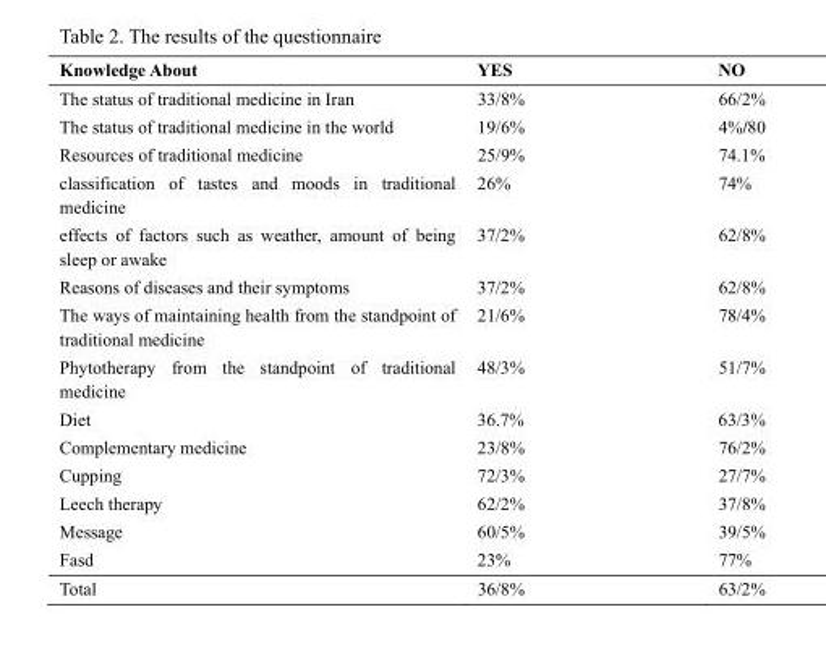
<table><thead><tr><td>Knowledge About</td><td>YES</td><td>NO</td></tr></thead><tbody><tr><td>The status of traditional medicine in Iran</td><td>33/8%</td><td>66/2%</td></tr><tr><td>The status of traditional medicine in the world</td><td>19/6%</td><td>4%/80</td></tr><tr><td>Resources of traditional medicine</td><td>25/9%</td><td>74.1%</td></tr><tr><td>classification of tastes and moods in traditional medicine</td><td>26%</td><td>74%</td></tr><tr><td>effects of factors such as weather, amount of being sleep or awake</td><td>37/2%</td><td>62/8%</td></tr><tr><td>Reasons of diseases and their symptoms</td><td>37/2%</td><td>62/8%</td></tr><tr><td>The ways of maintaining health from the standpoint of traditional medicine</td><td>21/6%</td><td>78/4%</td></tr><tr><td>Phytotherapy from the standpoint of traditional medicine</td><td>48/3%</td><td>51/7%</td></tr><tr><td>Diet</td><td>36.7%</td><td>63/3%</td></tr><tr><td>Complementary medicine</td><td>23/8%</td><td>76/2%</td></tr><tr><td>Cupping</td><td>72/3%</td><td>27/7%</td></tr><tr><td>Leech therapy</td><td>62/2%</td><td>37/8%</td></tr><tr><td>Message</td><td>60/5%</td><td>39/5%</td></tr><tr><td>Fasd</td><td>23%</td><td>77%</td></tr><tr><td>Total</td><td>36/8%</td><td>63/2%</td></tr></tbody></table>